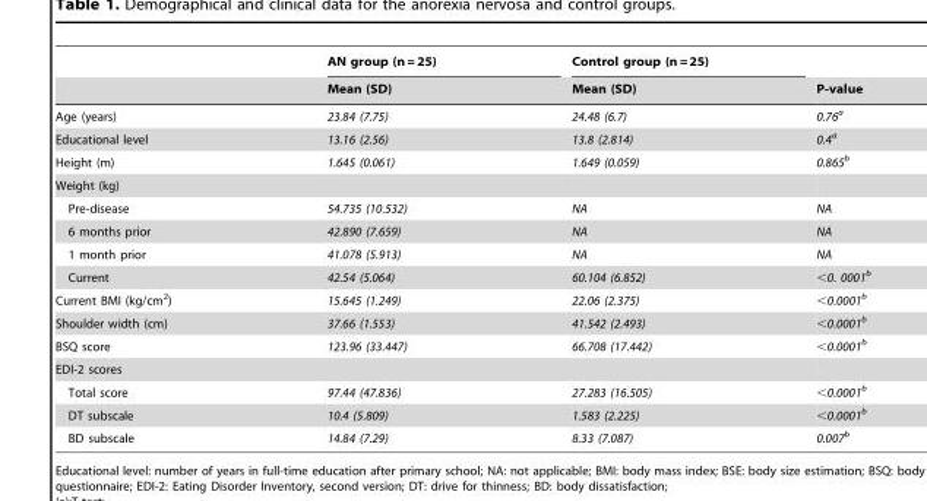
<table><thead><tr><td rowspan="2"></td><td rowspan="2">AN group (n = 25) Mean (SD)</td><td rowspan="2">Control group (n = 25) Mean (SD)</td><td rowspan="2">P-value</td></tr><tr></tr></thead><tbody><tr><td>Age (years)</td><td>23.84 (7.75)</td><td>24.48 (6.7)</td><td>0.76<sup>a</sup></td></tr><tr><td>Educational level</td><td>13.16 (2.56)</td><td>13.8 (2.814)</td><td>0.4<sup>a</sup></td></tr><tr><td>Height (m)</td><td>1.645 (0.061)</td><td>1.649 (0.059)</td><td>0.865<sup>b</sup></td></tr><tr><td colspan="4">Weight (kg)</td></tr><tr><td>Pre-disease</td><td>54.735 (10.532)</td><td>NA</td><td>NA</td></tr><tr><td>6 months prior</td><td>42.890 (7.659)</td><td>NA</td><td>NA</td></tr><tr><td>1 month prior</td><td>41.078 (5.913)</td><td>NA</td><td>NA</td></tr><tr><td>Current</td><td>42.54 (5.064)</td><td>60.104 (6.852)</td><td>&lt;0. 0001<sup>b</sup></td></tr><tr><td>Current BMI (kg/cm<sup>2</sup>)</td><td>15.645 (1.249)</td><td>22.06 (2.375)</td><td>&lt;0.0001<sup>b</sup></td></tr><tr><td>Shoulder width (cm)</td><td>37.66 (1.553)</td><td>41.542 (2.493)</td><td>&lt;0.0001<sup>b</sup></td></tr><tr><td>BSQ score</td><td>123.96 (33.447)</td><td>66.708 (17.442)</td><td>&lt;0.0001<sup>b</sup></td></tr><tr><td colspan="4">EDI-2 scores</td></tr><tr><td>Total score</td><td>97.44 (47.836)</td><td>27.283 (16.505)</td><td>&lt;0.0001<sup>b</sup></td></tr><tr><td>DT subscale</td><td>10.4 (5.809)</td><td>1.583 (2.225)</td><td>&lt;0.0001<sup>b</sup></td></tr><tr><td>BD subscale</td><td>14.84 (7.29)</td><td>8.33 (7.087)</td><td>0.007<sup>b</sup></td></tr></tbody></table>